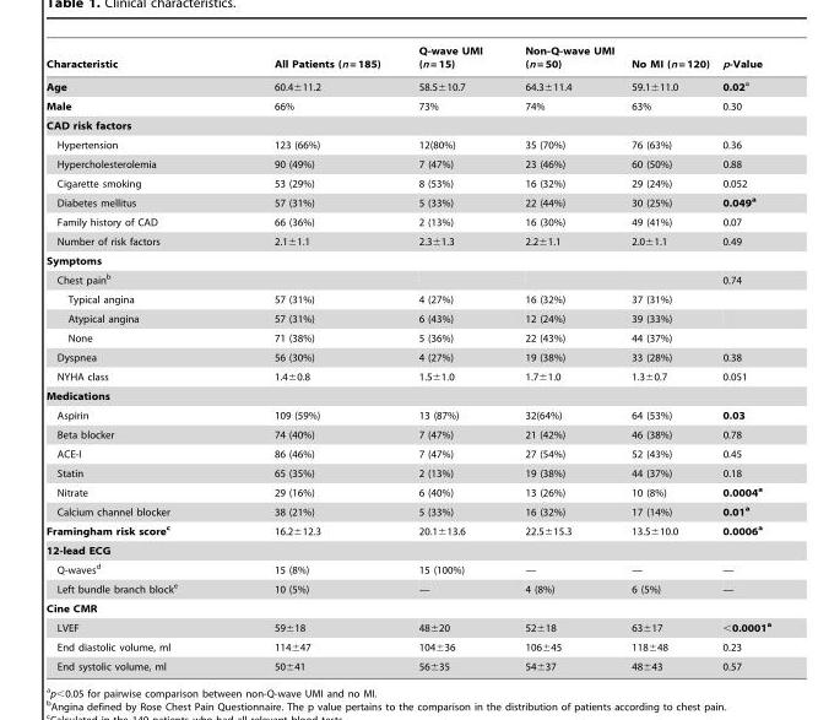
<table><thead><tr><td>Characteristic</td><td>All Patients (n = 185)</td><td>Q-wave UMI (n = 15)</td><td>Non-Q-wave UMI (n = 50)</td><td>No MI (n = 120)</td><td>p-Value</td></tr></thead><tbody><tr><td>Age</td><td>60.4±11.2</td><td>58.5±10.7</td><td>64.3±11.4</td><td>59.1±11.0</td><td>0.02a</td></tr><tr><td>Male</td><td>66%</td><td>73%</td><td>74%</td><td>63%</td><td>0.30</td></tr><tr><td colspan="6">CAD risk factors</td></tr><tr><td>Hypertension</td><td>123 (66%)</td><td>12(80%)</td><td>35 (70%)</td><td>76 (63%)</td><td>0.36</td></tr><tr><td>Hypercholesterolemia</td><td>90 (49%)</td><td>7 (47%)</td><td>23 (46%)</td><td>60 (50%)</td><td>0.88</td></tr><tr><td>Cigarette smoking</td><td>53 (29%)</td><td>8 (53%)</td><td>16 (32%)</td><td>29 (24%)</td><td>0.052</td></tr><tr><td>Diabetes mellitus</td><td>57 (31%)</td><td>5 (33%)</td><td>22 (44%)</td><td>30 (25%)</td><td>0.049a</td></tr><tr><td>Family history of CAD</td><td>66 (36%)</td><td>2 (13%)</td><td>16 (30%)</td><td>49 (41%)</td><td>0.07</td></tr><tr><td>Number of risk factors</td><td>2.1±1.1</td><td>2.3±1.3</td><td>2.2±1.1</td><td>2.0±1.1</td><td>0.49</td></tr><tr><td colspan="6">Symptoms</td></tr><tr><td>Chest pain<sup>b</sup></td><td></td><td></td><td></td><td></td><td>0.74</td></tr><tr><td>Typical angina</td><td>57 (31%)</td><td>4 (27%)</td><td>16 (32%)</td><td>37 (31%)</td><td></td></tr><tr><td>Atypical angina</td><td>57 (31%)</td><td>6 (43%)</td><td>12 (24%)</td><td>39 (33%)</td><td></td></tr><tr><td>None</td><td>71 (38%)</td><td>5 (36%)</td><td>22 (43%)</td><td>44 (37%)</td><td></td></tr><tr><td>Dyspnea</td><td>56 (30%)</td><td>4 (27%)</td><td>19 (38%)</td><td>33 (28%)</td><td>0.38</td></tr><tr><td>NYHA class</td><td>1.4±0.8</td><td>1.5±1.0</td><td>1.7±1.0</td><td>1.3±0.7</td><td>0.051</td></tr><tr><td colspan="6">Medications</td></tr><tr><td>Aspirin</td><td>109 (59%)</td><td>13 (87%)</td><td>32(64%)</td><td>64 (53%)</td><td>0.03</td></tr><tr><td>Beta blocker</td><td>74 (40%)</td><td>7 (47%)</td><td>21 (42%)</td><td>46 (38%)</td><td>0.78</td></tr><tr><td>ACE-I</td><td>86 (46%)</td><td>7 (47%)</td><td>27 (54%)</td><td>52 (43%)</td><td>0.45</td></tr><tr><td>Statin</td><td>65 (35%)</td><td>2 (13%)</td><td>19 (38%)</td><td>44 (37%)</td><td>0.18</td></tr><tr><td>Nitrate</td><td>29 (16%)</td><td>6 (40%)</td><td>13 (26%)</td><td>10 (8%)</td><td>0.0004a</td></tr><tr><td>Calcium channel blocker</td><td>38 (21%)</td><td>5 (33%)</td><td>16 (32%)</td><td>17 (14%)</td><td>0.01a</td></tr><tr><td>Framingham risk scorec</td><td>16.2±12.3</td><td>20.1±13.6</td><td>22.5±15.3</td><td>13.5±10.0</td><td>0.0006a</td></tr><tr><td colspan="6">12-lead ECG</td></tr><tr><td>Q-waves<sup>d</sup></td><td>15 (8%)</td><td>15 (100%)</td><td>—</td><td>—</td><td>—</td></tr><tr><td>Left bundle branch block<sup>e</sup></td><td>10 (5%)</td><td>—</td><td>4 (8%)</td><td>6 (5%)</td><td>—</td></tr><tr><td colspan="6">Cine CMR</td></tr><tr><td>LVEF</td><td>59±18</td><td>48±20</td><td>52±18</td><td>63±17</td><td>&lt;0.0001a</td></tr><tr><td>End diastolic volume, ml</td><td>114±47</td><td>104±36</td><td>106±45</td><td>118±48</td><td>0.23</td></tr><tr><td>End systolic volume, ml</td><td>50±41</td><td>56±35</td><td>54±37</td><td>48±43</td><td>0.57</td></tr></tbody></table>